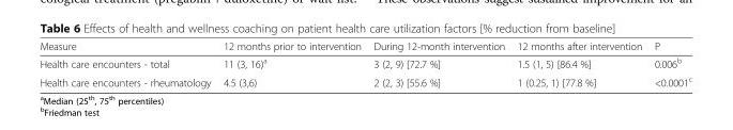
<table><thead><tr><td>Measure</td><td>12 months prior to intervention</td><td>During 12-month intervention</td><td>12 months after intervention</td><td>P</td></tr></thead><tbody><tr><td>Health care encounters - total</td><td>11 (3, 16)<sup>a</sup></td><td>3 (2, 9) [72.7 %]</td><td>1.5 (1, 5) [86.4 %]</td><td>0.006<sup>b</sup></td></tr><tr><td>Health care encounters - rheumatology</td><td>4.5 (3,6)</td><td>2 (2, 3) [55.6 %]</td><td>1 (0.25, 1) [77.8 %]</td><td>&lt;0.0001<sup>c</sup></td></tr></tbody></table>